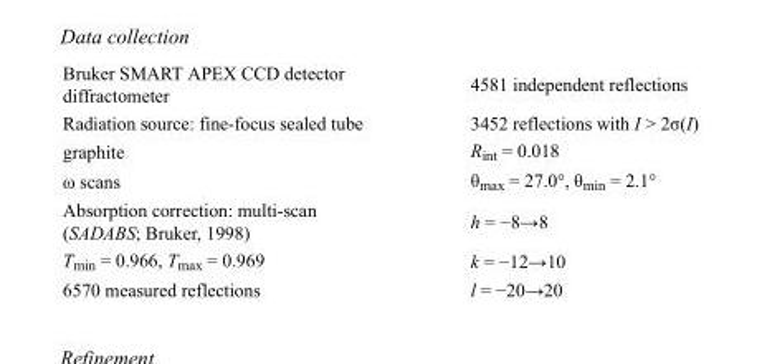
<table><tbody><tr><td>Bruker SMART APEX CCD detector diffractometer</td><td>4581 independent reflections</td></tr><tr><td>Radiation source: fine-focus sealed tube</td><td>3452 reflections with I &gt; 2σ(I)</td></tr><tr><td>graphite</td><td>R<sub>int</sub> = 0.018</td></tr><tr><td>ω scans</td><td>θ<sub>max</sub> = 27.0°, θ<sub>min</sub> = 2.1°</td></tr><tr><td>Absorption correction: multi-scan (SADABS; Bruker, 1998)</td><td>h = −8→8</td></tr><tr><td>T<sub>min</sub> = 0.966, T<sub>max</sub> = 0.969</td><td>k = −12→10</td></tr><tr><td>6570 measured reflections</td><td>l = −20→20</td></tr></tbody></table>